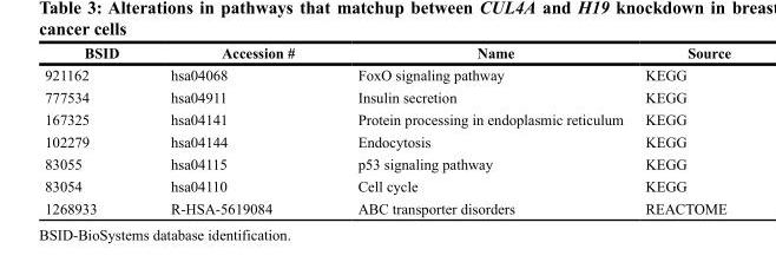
<table><thead><tr><td>BSID</td><td>Accession #</td><td>Name</td><td>Source</td></tr></thead><tbody><tr><td>921162</td><td>hsa04068</td><td>FoxO signaling pathway</td><td>KEGG</td></tr><tr><td>777534</td><td>hsa04911</td><td>Insulin secretion</td><td>KEGG</td></tr><tr><td>167325</td><td>hsa04141</td><td>Protein processing in endoplasmic reticulum</td><td>KEGG</td></tr><tr><td>102279</td><td>hsa04144</td><td>Endocytosis</td><td>KEGG</td></tr><tr><td>83055</td><td>hsa04115</td><td>p53 signaling pathway</td><td>KEGG</td></tr><tr><td>83054</td><td>hsa04110</td><td>Cell cycle</td><td>KEGG</td></tr><tr><td>1268933</td><td>R-HSA-5619084</td><td>ABC transporter disorders</td><td>REACTOME</td></tr></tbody></table>